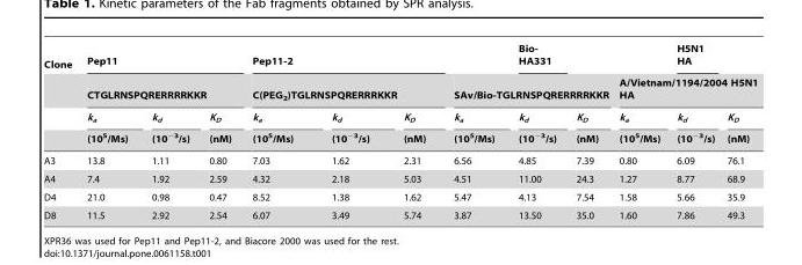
<table><thead><tr><td rowspan="4">Clone</td><td rowspan="2" colspan="3">Pep11 CTGLRNSPQRERRRRKKR</td><td rowspan="2" colspan="3">Pep11-2 C(PEG<sub>2</sub>)TGLRNSPQRERRRKKR</td><td></td><td>Bio- HA331</td><td></td><td></td><td>H5N1 HA</td><td></td></tr><tr><td colspan="3">SAv/Bio-TGLRNSPQRERRRRKKR</td><td colspan="3">A/Vietnam/1194/2004 H5N1 HA</td></tr><tr><td rowspan="2">k<sub>a</sub> (10<sup>5</sup>/Ms)</td><td rowspan="2">kd (10−3/s)</td><td rowspan="2">KD (nM)</td><td rowspan="2">k<sub>a</sub> (10<sup>5</sup>/Ms)</td><td rowspan="2">kd (10−3/s)</td><td rowspan="2">KD (nM)</td><td rowspan="2">k<sub>a</sub> (10<sup>5</sup>/Ms)</td><td rowspan="2">kd (10−3/s)</td><td rowspan="2">KD (nM)</td><td rowspan="2">k<sub>a</sub> (10<sup>5</sup>/Ms)</td><td rowspan="2">kd (10−3/s)</td><td rowspan="2">KD (nM)</td></tr><tr></tr></thead><tbody><tr><td>A3</td><td>13.8</td><td>1.11</td><td>0.80</td><td>7.03</td><td>1.62</td><td>2.31</td><td>6.56</td><td>4.85</td><td>7.39</td><td>0.80</td><td>6.09</td><td>76.1</td></tr><tr><td>A4</td><td>7.4</td><td>1.92</td><td>2.59</td><td>4.32</td><td>2.18</td><td>5.03</td><td>4.51</td><td>11.00</td><td>24.3</td><td>1.27</td><td>8.77</td><td>68.9</td></tr><tr><td>D4</td><td>21.0</td><td>0.98</td><td>0.47</td><td>8.52</td><td>1.38</td><td>1.62</td><td>5.47</td><td>4.13</td><td>7.54</td><td>1.58</td><td>5.66</td><td>35.9</td></tr><tr><td>D8</td><td>11.5</td><td>2.92</td><td>2.54</td><td>6.07</td><td>3.49</td><td>5.74</td><td>3.87</td><td>13.50</td><td>35.0</td><td>1.60</td><td>7.86</td><td>49.3</td></tr></tbody></table>